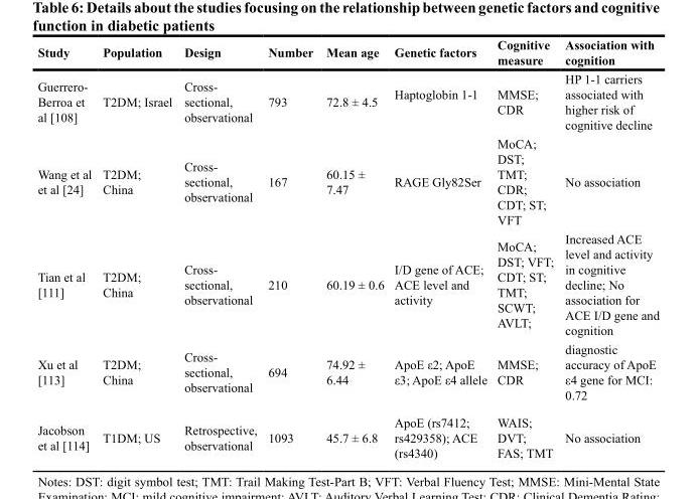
<table><thead><tr><td>Study</td><td>Population</td><td>Design</td><td>Number</td><td>Mean age</td><td>Genetic factors</td><td>Cognitive measure</td><td>Association with cognition</td></tr></thead><tbody><tr><td>Guerrero- Berroa et al [108]</td><td>T2DM; Israel</td><td>Cross- sectional, observational</td><td>793</td><td>72.8 ± 4.5</td><td>Haptoglobin 1-1</td><td>MMSE; CDR</td><td>HP 1-1 carriers associated with higher risk of cognitive decline</td></tr><tr><td>Wang et al et al [24]</td><td>T2DM; China</td><td>Cross- sectional, observational</td><td>167</td><td>60.15 ± 7.47</td><td>RAGE Gly82Ser</td><td>MoCA; DST; TMT; CDR; CDT; ST; VFT</td><td>No association</td></tr><tr><td>Tian et al [111]</td><td>T2DM; China</td><td>Cross- sectional, observational</td><td>210</td><td>60.19 ± 0.6</td><td>I/D gene of ACE; ACE level and activity</td><td>MoCA; DST; VFT; CDT; ST; TMT; SCWT; AVLT;</td><td>Increased ACE level and activity in cognitive decline; No association for ACE I/D gene and cognition</td></tr><tr><td>Xu et al [113]</td><td>T2DM; China</td><td>Cross- sectional, observational</td><td>694</td><td>74.92 ± 6.44</td><td>ApoE ε2; ApoE ε3; ApoE ε4 allele</td><td>MMSE; CDR</td><td>diagnostic accuracy of ApoE ε4 gene for MCI: 0.72</td></tr><tr><td>Jacobson et al [114]</td><td>T1DM; US</td><td>Retrospective, observational</td><td>1093</td><td>45.7 ± 6.8</td><td>ApoE (rs7412; rs429358); ACE (rs4340)</td><td>WAIS; DVT; FAS; TMT</td><td>No association</td></tr></tbody></table>